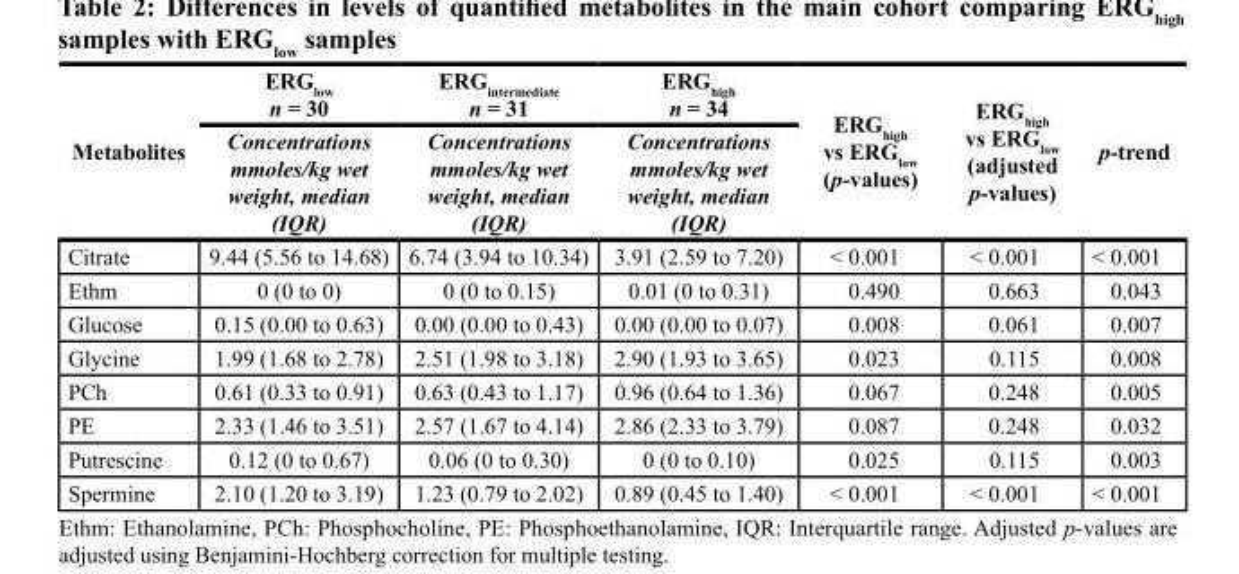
<table><thead><tr><td rowspan="2">Metabolites</td><td rowspan="2">erG<sub>low</sub> n = 30 Concentrations mmoles/kg wet weight, median (IQR)</td><td rowspan="2">erG<sub>intermediate</sub> n = 31 Concentrations mmoles/kg wet weight, median (IQR)</td><td rowspan="2">erG<sub>high</sub> n = 34 Concentrations mmoles/kg wet weight, median (IQR)</td><td rowspan="2">erG<sub>high</sub> vs erG<sub>low</sub> (p-values)</td><td rowspan="2">erG<sub>high</sub> vs erG<sub>low</sub> (adjusted p-values)</td><td rowspan="2">p-trend</td></tr><tr></tr></thead><tbody><tr><td>Citrate</td><td>9.44 (5.56 to 14.68)</td><td>6.74 (3.94 to 10.34)</td><td>3.91 (2.59 to 7.20)</td><td>&lt; 0.001</td><td>&lt; 0.001</td><td>&lt; 0.001</td></tr><tr><td>Ethm</td><td>0 (0 to 0)</td><td>0 (0 to 0.15)</td><td>0.01 (0 to 0.31)</td><td>0.490</td><td>0.663</td><td>0.043</td></tr><tr><td>Glucose</td><td>0.15 (0.00 to 0.63)</td><td>0.00 (0.00 to 0.43)</td><td>0.00 (0.00 to 0.07)</td><td>0.008</td><td>0.061</td><td>0.007</td></tr><tr><td>Glycine</td><td>1.99 (1.68 to 2.78)</td><td>2.51 (1.98 to 3.18)</td><td>2.90 (1.93 to 3.65)</td><td>0.023</td><td>0.115</td><td>0.008</td></tr><tr><td>PCh</td><td>0.61 (0.33 to 0.91)</td><td>0.63 (0.43 to 1.17)</td><td>0.96 (0.64 to 1.36)</td><td>0.067</td><td>0.248</td><td>0.005</td></tr><tr><td>PE</td><td>2.33 (1.46 to 3.51)</td><td>2.57 (1.67 to 4.14)</td><td>2.86 (2.33 to 3.79)</td><td>0.087</td><td>0.248</td><td>0.032</td></tr><tr><td>Putrescine</td><td>0.12 (0 to 0.67)</td><td>0.06 (0 to 0.30)</td><td>0 (0 to 0.10)</td><td>0.025</td><td>0.115</td><td>0.003</td></tr><tr><td>Spermine</td><td>2.10 (1.20 to 3.19)</td><td>1.23 (0.79 to 2.02)</td><td>0.89 (0.45 to 1.40)</td><td>&lt; 0.001</td><td>&lt; 0.001</td><td>&lt; 0.001</td></tr></tbody></table>